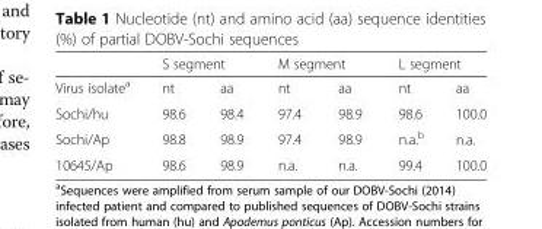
<table><thead><tr><td rowspan="2">Virus isolate<sup>a</sup></td><td colspan="2">S segment</td><td colspan="2">M segment</td><td colspan="2">L segment</td></tr><tr><td>nt</td><td>aa</td><td>nt</td><td>aa</td><td>nt</td><td>aa</td></tr></thead><tbody><tr><td>Sochi/hu</td><td>98.6</td><td>98.4</td><td>97.4</td><td>98.9</td><td>98.6</td><td>100.0</td></tr><tr><td>Sochi/Ap</td><td>98.8</td><td>98.9</td><td>97.4</td><td>98.9</td><td>n.a.<sup>b</sup></td><td>n.a.</td></tr><tr><td>10645/Ap</td><td>98.6</td><td>98.9</td><td>n.a.</td><td>n.a.</td><td>99.4</td><td>100.0</td></tr></tbody></table>